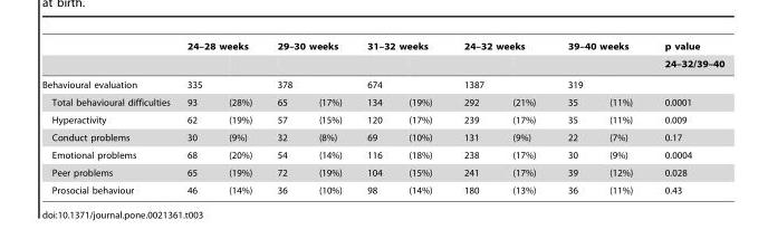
<table><thead><tr><td rowspan="2"></td><td colspan="2">24–28 weeks</td><td colspan="2">29–30 weeks</td><td colspan="2">31–32 weeks</td><td colspan="2">24–32 weeks</td><td colspan="2">39–40 weeks</td><td rowspan="2">p value 24–32/39–40</td></tr><tr><td></td><td></td><td></td><td></td><td></td><td></td><td></td><td></td><td></td><td></td></tr></thead><tbody><tr><td>Behavioural evaluation</td><td>335</td><td></td><td>378</td><td></td><td>674</td><td></td><td>1387</td><td></td><td>319</td><td></td><td></td></tr><tr><td>Total behavioural difficulties</td><td>93</td><td>(28%)</td><td>65</td><td>(17%)</td><td>134</td><td>(19%)</td><td>292</td><td>(21%)</td><td>35</td><td>(11%)</td><td>0.0001</td></tr><tr><td>Hyperactivity</td><td>62</td><td>(19%)</td><td>57</td><td>(15%)</td><td>120</td><td>(17%)</td><td>239</td><td>(17%)</td><td>35</td><td>(11%)</td><td>0.009</td></tr><tr><td>Conduct problems</td><td>30</td><td>(9%)</td><td>32</td><td>(8%)</td><td>69</td><td>(10%)</td><td>131</td><td>(9%)</td><td>22</td><td>(7%)</td><td>0.17</td></tr><tr><td>Emotional problems</td><td>68</td><td>(20%)</td><td>54</td><td>(14%)</td><td>116</td><td>(18%)</td><td>238</td><td>(17%)</td><td>30</td><td>(9%)</td><td>0.0004</td></tr><tr><td>Peer problems</td><td>65</td><td>(19%)</td><td>72</td><td>(19%)</td><td>104</td><td>(15%)</td><td>241</td><td>(17%)</td><td>39</td><td>(12%)</td><td>0.028</td></tr><tr><td>Prosocial behaviour</td><td>46</td><td>(14%)</td><td>36</td><td>(10%)</td><td>98</td><td>(14%)</td><td>180</td><td>(13%)</td><td>36</td><td>(11%)</td><td>0.43</td></tr></tbody></table>